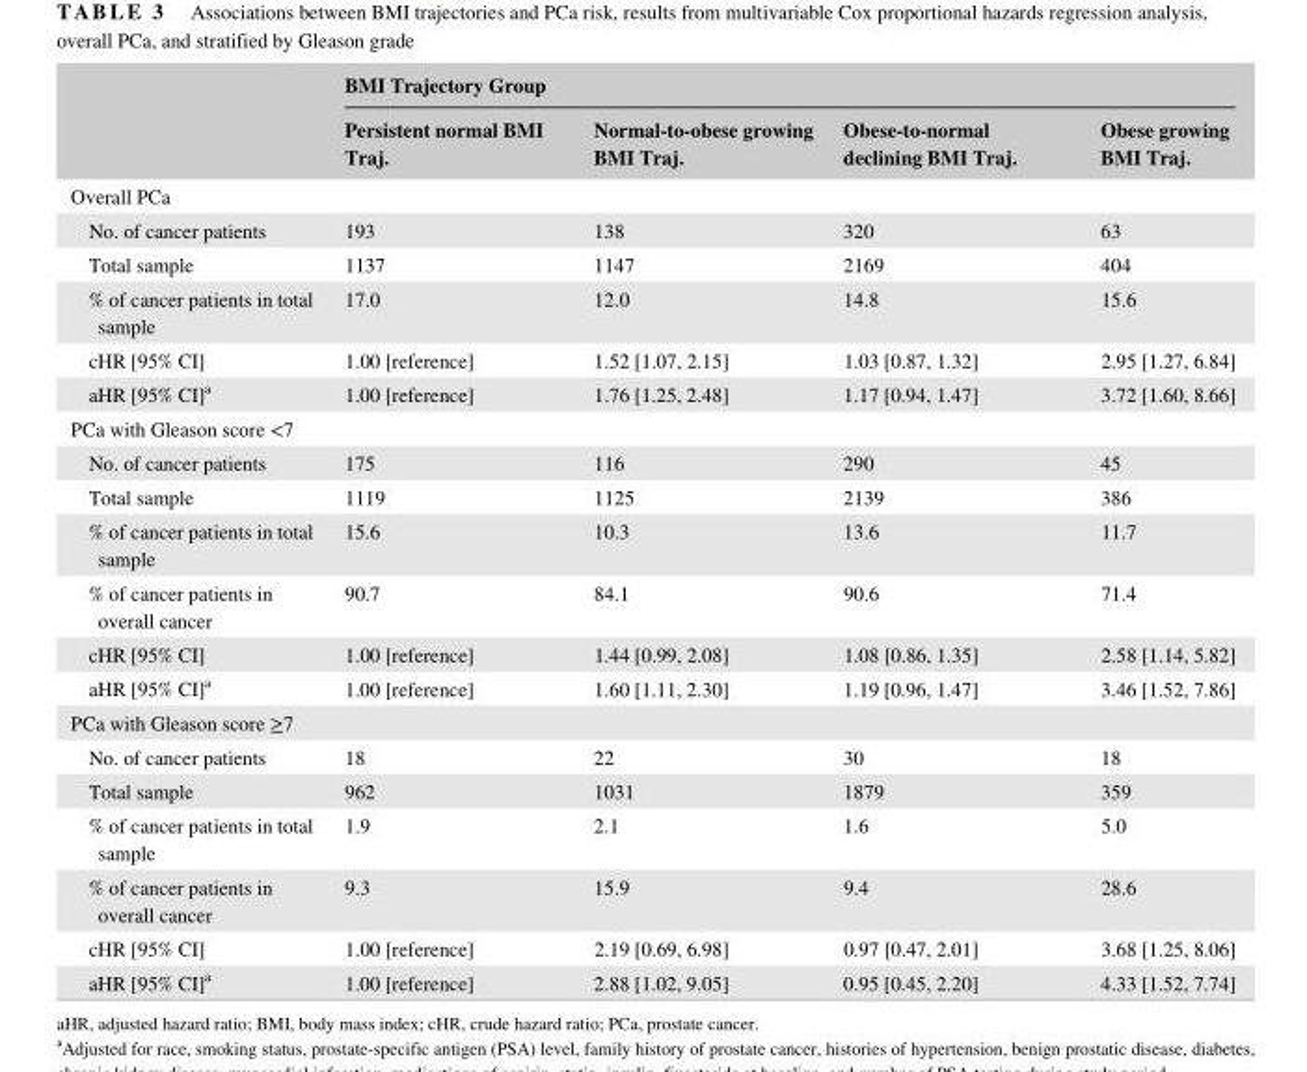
<table><thead><tr><td rowspan="2"></td><td colspan="4">BMI Trajectory Group</td></tr><tr><td>Persistent normal BMI Traj.</td><td>Normal- to- obese growing BMI Traj.</td><td>Obese- to- normal declining BMI Traj.</td><td>Obese growing BMI Traj.</td></tr></thead><tbody><tr><td colspan="5">Overall PCa</td></tr><tr><td>No. of cancer patients</td><td>193</td><td>138</td><td>320</td><td>63</td></tr><tr><td>Total sample</td><td>1137</td><td>1147</td><td>2169</td><td>404</td></tr><tr><td>% of cancer patients in total sample</td><td>17.0</td><td>12.0</td><td>14.8</td><td>15.6</td></tr><tr><td>cHR [95% CI]</td><td>1.00 [reference]</td><td>1.52 [1.07, 2.15]</td><td>1.03 [0.87, 1.32]</td><td>2.95 [1.27, 6.84]</td></tr><tr><td>aHR [95% CI]<sup>a</sup></td><td>1.00 [reference]</td><td>1.76 [1.25, 2.48]</td><td>1.17 [0.94, 1.47]</td><td>3.72 [1.60, 8.66]</td></tr><tr><td colspan="5">PCa with Gleason score &lt;7</td></tr><tr><td>No. of cancer patients</td><td>175</td><td>116</td><td>290</td><td>45</td></tr><tr><td>Total sample</td><td>1119</td><td>1125</td><td>2139</td><td>386</td></tr><tr><td>% of cancer patients in total sample</td><td>15.6</td><td>10.3</td><td>13.6</td><td>11.7</td></tr><tr><td>% of cancer patients in overall cancer</td><td>90.7</td><td>84.1</td><td>90.6</td><td>71.4</td></tr><tr><td>cHR [95% CI]</td><td>1.00 [reference]</td><td>1.44 [0.99, 2.08]</td><td>1.08 [0.86, 1.35]</td><td>2.58 [1.14, 5.82]</td></tr><tr><td>aHR [95% CI]<sup>a</sup></td><td>1.00 [reference]</td><td>1.60 [1.11, 2.30]</td><td>1.19 [0.96, 1.47]</td><td>3.46 [1.52, 7.86]</td></tr><tr><td colspan="5">PCa with Gleason score ≥7</td></tr><tr><td>No. of cancer patients</td><td>18</td><td>22</td><td>30</td><td>18</td></tr><tr><td>Total sample</td><td>962</td><td>1031</td><td>1879</td><td>359</td></tr><tr><td>% of cancer patients in total sample</td><td>1.9</td><td>2.1</td><td>1.6</td><td>5.0</td></tr><tr><td>% of cancer patients in overall cancer</td><td>9.3</td><td>15.9</td><td>9.4</td><td>28.6</td></tr><tr><td>cHR [95% CI]</td><td>1.00 [reference]</td><td>2.19 [0.69, 6.98]</td><td>0.97 [0.47, 2.01]</td><td>3.68 [1.25, 8.06]</td></tr><tr><td>aHR [95% CI]<sup>a</sup></td><td>1.00 [reference]</td><td>2.88 [1.02, 9.05]</td><td>0.95 [0.45, 2.20]</td><td>4.33 [1.52, 7.74]</td></tr></tbody></table>